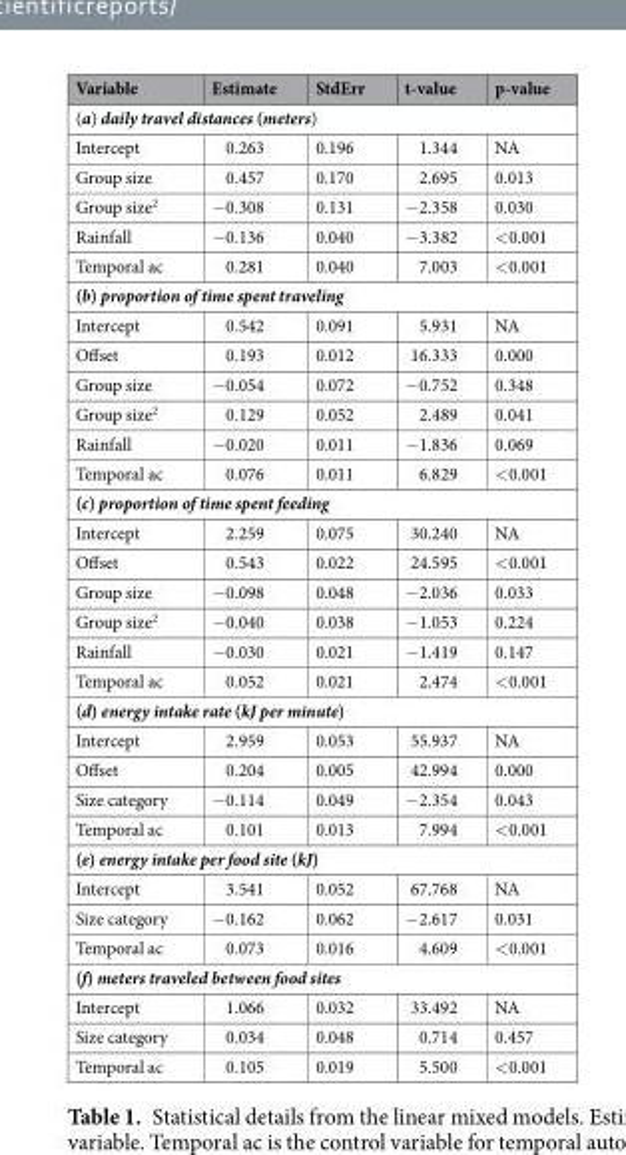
<table><thead><tr><td>Variable</td><td>Estimate</td><td>StdErr</td><td>t-value</td><td>p-value</td></tr></thead><tbody><tr><td colspan="5">(a) daily travel distances (meters)</td></tr><tr><td>Intercept</td><td>0.263</td><td>0.196</td><td>1.344</td><td>NA</td></tr><tr><td>Group size</td><td>0.457</td><td>0.170</td><td>2.695</td><td>0.013</td></tr><tr><td>Group size<sup>2</sup></td><td>−0.308</td><td>0.131</td><td>−2.358</td><td>0.030</td></tr><tr><td>Rainfall</td><td>−0.136</td><td>0.040</td><td>−3.382</td><td>&lt;0.001</td></tr><tr><td>Temporal ac</td><td>0.281</td><td>0.040</td><td>7.003</td><td>&lt;0.001</td></tr><tr><td colspan="5">(b) proportion of time spent traveling</td></tr><tr><td>Intercept</td><td>0.542</td><td>0.091</td><td>5.931</td><td>NA</td></tr><tr><td>Offset</td><td>0.193</td><td>0.012</td><td>16.333</td><td>0.000</td></tr><tr><td>Group size</td><td>−0.054</td><td>0.072</td><td>−0.752</td><td>0.348</td></tr><tr><td>Group size<sup>2</sup></td><td>0.129</td><td>0.052</td><td>2.489</td><td>0.041</td></tr><tr><td>Rainfall</td><td>−0.020</td><td>0.011</td><td>−1.836</td><td>0.069</td></tr><tr><td>Temporal ac</td><td>0.076</td><td>0.011</td><td>6.829</td><td>&lt;0.001</td></tr><tr><td colspan="5">(c) proportion of time spent feeding</td></tr><tr><td>Intercept</td><td>2.259</td><td>0.075</td><td>30.240</td><td>NA</td></tr><tr><td>Offset</td><td>0.543</td><td>0.022</td><td>24.595</td><td>&lt;0.001</td></tr><tr><td>Group size</td><td>−0.098</td><td>0.048</td><td>−2.036</td><td>0.033</td></tr><tr><td>Group size<sup>2</sup></td><td>−0.040</td><td>0.038</td><td>−1.053</td><td>0.224</td></tr><tr><td>Rainfall</td><td>−0.030</td><td>0.021</td><td>−1.419</td><td>0.147</td></tr><tr><td>Temporal ac</td><td>0.052</td><td>0.021</td><td>2.474</td><td>&lt;0.001</td></tr><tr><td colspan="5">(d) energy intake rate (kJ per minute)</td></tr><tr><td>Intercept</td><td>2.959</td><td>0.053</td><td>55.937</td><td>NA</td></tr><tr><td>Offset</td><td>0.204</td><td>0.005</td><td>42.994</td><td>0.000</td></tr><tr><td>Size category</td><td>−0.114</td><td>0.049</td><td>−2.354</td><td>0.043</td></tr><tr><td>Temporal ac</td><td>0.101</td><td>0.013</td><td>7.994</td><td>&lt;0.001</td></tr><tr><td colspan="5">(e) energy intake per food site (kJ)</td></tr><tr><td>Intercept</td><td>3.541</td><td>0.052</td><td>67.768</td><td>NA</td></tr><tr><td>Size category</td><td>−0.162</td><td>0.062</td><td>−2.617</td><td>0.031</td></tr><tr><td>Temporal ac</td><td>0.073</td><td>0.016</td><td>4.609</td><td>&lt;0.001</td></tr><tr><td colspan="5">(f) meters traveled between food sites</td></tr><tr><td>Intercept</td><td>1.066</td><td>0.032</td><td>33.492</td><td>NA</td></tr><tr><td>Size category</td><td>0.034</td><td>0.048</td><td>0.714</td><td>0.457</td></tr><tr><td>Temporal ac</td><td>0.105</td><td>0.019</td><td>5.500</td><td>&lt;0.001</td></tr></tbody></table>